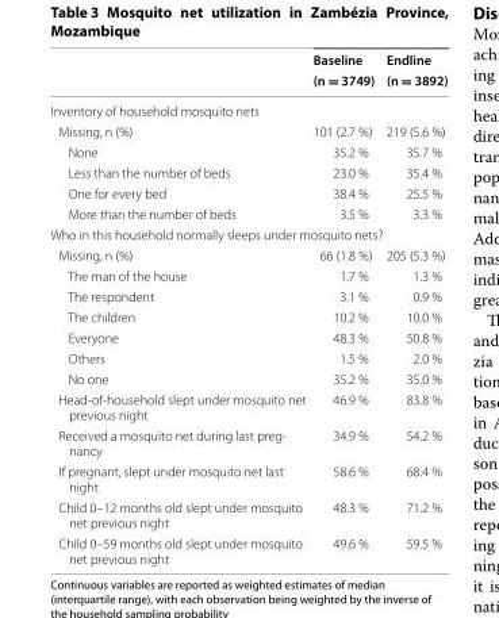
<table><thead><tr><td rowspan="2"></td><td rowspan="2">Baseline (n = 3749)</td><td rowspan="2">Endline (n = 3892)</td></tr><tr></tr></thead><tbody><tr><td colspan="3">Inventory of household mosquito nets</td></tr><tr><td>Missing, n (%)</td><td>101 (2.7 %)</td><td>219 (5.6 %)</td></tr><tr><td>None</td><td>35.2 %</td><td>35.7 %</td></tr><tr><td>Less than the number of beds</td><td>23.0 %</td><td>35.4 %</td></tr><tr><td>One for every bed</td><td>38.4 %</td><td>25.5 %</td></tr><tr><td>More than the number of beds</td><td>3.5 %</td><td>3.3 %</td></tr><tr><td colspan="3">Who in this household normally sleeps under mosquito nets?</td></tr><tr><td>Missing, n (%)</td><td>66 (1.8 %)</td><td>205 (5.3 %)</td></tr><tr><td>The man of the house</td><td>1.7 %</td><td>1.3 %</td></tr><tr><td>The respondent</td><td>3.1 %</td><td>0.9 %</td></tr><tr><td>The children</td><td>10.2 %</td><td>10.0 %</td></tr><tr><td>Everyone</td><td>48.3 %</td><td>50.8 %</td></tr><tr><td>Others</td><td>1.5 %</td><td>2.0 %</td></tr><tr><td>No one</td><td>35.2 %</td><td>35.0 %</td></tr><tr><td>Head‑of‑household slept under mosquito net previous night</td><td>46.9 %</td><td>83.8 %</td></tr><tr><td>Received a mosquito net during last preg‑ nancy</td><td>34.9 %</td><td>54.2 %</td></tr><tr><td>If pregnant, slept under mosquito net last night</td><td>58.6 %</td><td>68.4 %</td></tr><tr><td>Child 0–12 months old slept under mosquito net previous night</td><td>48.3 %</td><td>71.2 %</td></tr><tr><td>Child 0–59 months old slept under mosquito net previous night</td><td>49.6 %</td><td>59.5 %</td></tr></tbody></table>